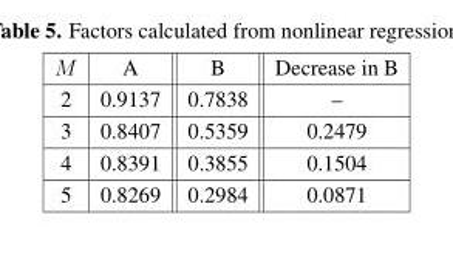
<table><thead><tr><td>M</td><td>A</td><td>B</td><td>Decrease in B</td></tr></thead><tbody><tr><td>2</td><td>0.9137</td><td>0.7838</td><td>–</td></tr><tr><td>3</td><td>0.8407</td><td>0.5359</td><td>0.2479</td></tr><tr><td>4</td><td>0.8391</td><td>0.3855</td><td>0.1504</td></tr><tr><td>5</td><td>0.8269</td><td>0.2984</td><td>0.0871</td></tr></tbody></table>